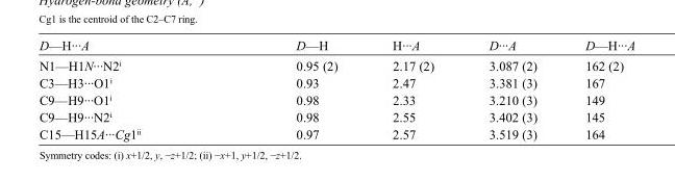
<table><tbody><tr><td>D—H···A</td><td>D—H</td><td>H···A</td><td>D···A</td><td>D—H···A</td></tr><tr><td>N1—H1N···N2<sup>i</sup></td><td>0.95 (2)</td><td>2.17 (2)</td><td>3.087 (2)</td><td>162 (2)</td></tr><tr><td>C3—H3···O1<sup>i</sup></td><td>0.93</td><td>2.47</td><td>3.381 (3)</td><td>167</td></tr><tr><td>C9—H9···O1<sup>i</sup></td><td>0.98</td><td>2.33</td><td>3.210 (3)</td><td>149</td></tr><tr><td>C9—H9···N2<sup>i</sup></td><td>0.98</td><td>2.55</td><td>3.402 (3)</td><td>145</td></tr><tr><td>C15—H15A···Cg1<sup>ii</sup></td><td>0.97</td><td>2.57</td><td>3.519 (3)</td><td>164</td></tr></tbody></table>